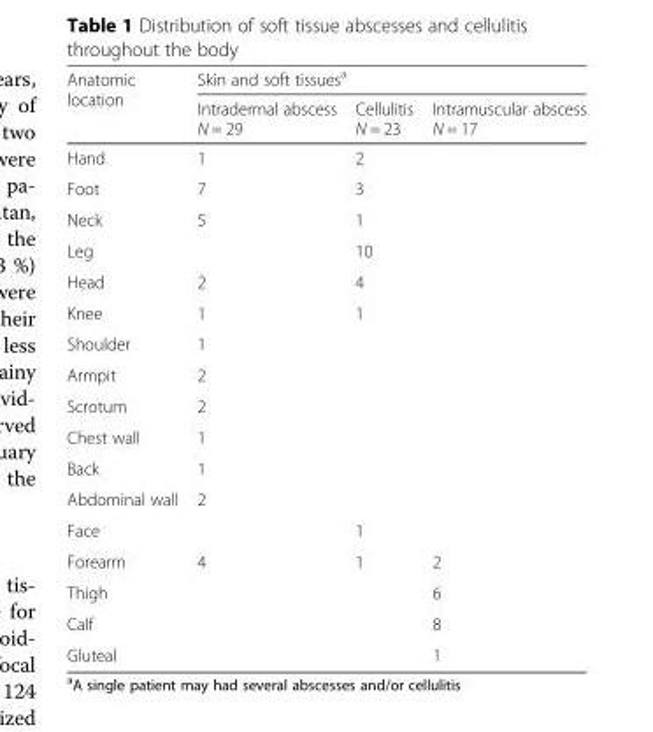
<table><thead><tr><td rowspan="2">Anatomic location</td><td colspan="3">Skin and soft tissues<sup>a</sup></td></tr><tr><td>Intradermal abscess N = 29</td><td>Cellulitis N = 23</td><td>Intramuscular abscess N = 17</td></tr></thead><tbody><tr><td>Hand</td><td>1</td><td>2</td><td></td></tr><tr><td>Foot</td><td>7</td><td>3</td><td></td></tr><tr><td>Neck</td><td>5</td><td>1</td><td></td></tr><tr><td>Leg</td><td></td><td>10</td><td></td></tr><tr><td>Head</td><td>2</td><td>4</td><td></td></tr><tr><td>Knee</td><td>1</td><td>1</td><td></td></tr><tr><td>Shoulder</td><td>1</td><td></td><td></td></tr><tr><td>Armpit</td><td>2</td><td></td><td></td></tr><tr><td>Scrotum</td><td>2</td><td></td><td></td></tr><tr><td>Chest wall</td><td>1</td><td></td><td></td></tr><tr><td>Back</td><td>1</td><td></td><td></td></tr><tr><td>Abdominal wall</td><td>2</td><td></td><td></td></tr><tr><td>Face</td><td></td><td>1</td><td></td></tr><tr><td>Forearm</td><td>4</td><td>1</td><td>2</td></tr><tr><td>Thigh</td><td></td><td></td><td>6</td></tr><tr><td>Calf</td><td></td><td></td><td>8</td></tr><tr><td>Gluteal</td><td></td><td></td><td>1</td></tr></tbody></table>